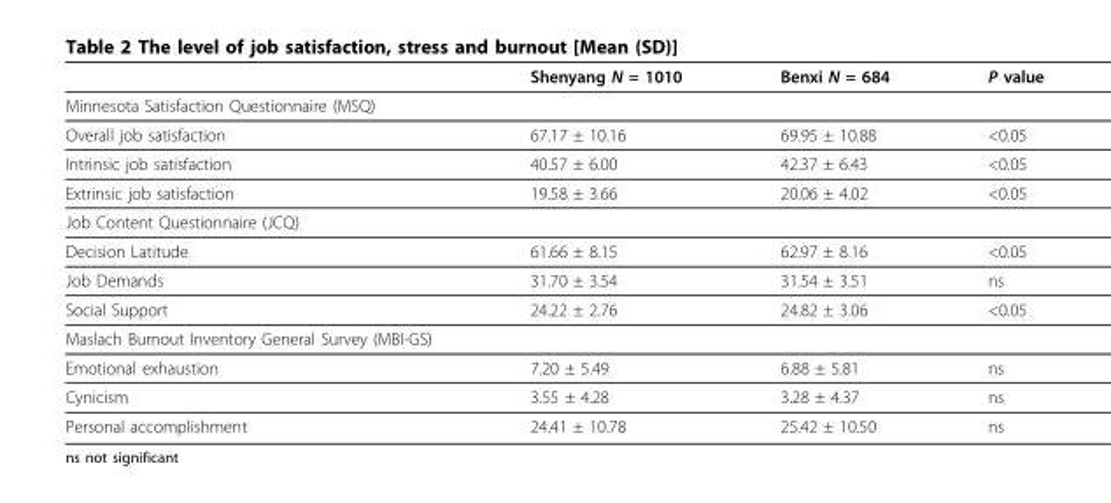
<table><thead><tr><td></td><td>Shenyang N = 1010</td><td>Benxi N = 684</td><td>P value</td></tr></thead><tbody><tr><td colspan="4">Minnesota Satisfaction Questionnaire (MSQ)</td></tr><tr><td>Overall job satisfaction</td><td>67.17 ± 10.16</td><td>69.95 ± 10.88</td><td>&lt;0.05</td></tr><tr><td>Intrinsic job satisfaction</td><td>40.57 ± 6.00</td><td>42.37 ± 6.43</td><td>&lt;0.05</td></tr><tr><td>Extrinsic job satisfaction</td><td>19.58 ± 3.66</td><td>20.06 ± 4.02</td><td>&lt;0.05</td></tr><tr><td colspan="4">Job Content Questionnaire (JCQ)</td></tr><tr><td>Decision Latitude</td><td>61.66 ± 8.15</td><td>62.97 ± 8.16</td><td>&lt;0.05</td></tr><tr><td>Job Demands</td><td>31.70 ± 3.54</td><td>31.54 ± 3.51</td><td>ns</td></tr><tr><td>Social Support</td><td>24.22 ± 2.76</td><td>24.82 ± 3.06</td><td>&lt;0.05</td></tr><tr><td colspan="4">Maslach Burnout Inventory General Survey (MBI-GS)</td></tr><tr><td>Emotional exhaustion</td><td>7.20 ± 5.49</td><td>6.88 ± 5.81</td><td>ns</td></tr><tr><td>Cynicism</td><td>3.55 ± 4.28</td><td>3.28 ± 4.37</td><td>ns</td></tr><tr><td>Personal accomplishment</td><td>24.41 ± 10.78</td><td>25.42 ± 10.50</td><td>ns</td></tr></tbody></table>